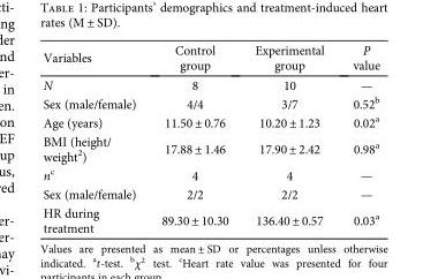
<table><thead><tr><td>Variables</td><td>Control group</td><td>Experimental group</td><td>P value</td></tr></thead><tbody><tr><td>N</td><td>8</td><td>10</td><td>—</td></tr><tr><td>Sex (male/female)</td><td>4/4</td><td>3/7</td><td>0.52<sup>b</sup></td></tr><tr><td>Age (years)</td><td>11.50 ± 0.76</td><td>10.20 ± 1.23</td><td>0.02<sup>a</sup></td></tr><tr><td>BMI (height/ weight<sup>2</sup>)</td><td>17.88 ± 1.46</td><td>17.90 ± 2.42</td><td>0.98<sup>a</sup></td></tr><tr><td>n<sup>c</sup></td><td>4</td><td>4</td><td>—</td></tr><tr><td>Sex (male/female)</td><td>2/2</td><td>2/2</td><td>—</td></tr><tr><td>HR during treatment</td><td>89.30 ± 10.30</td><td>136.40 ± 0.57</td><td>0.03<sup>a</sup></td></tr></tbody></table>